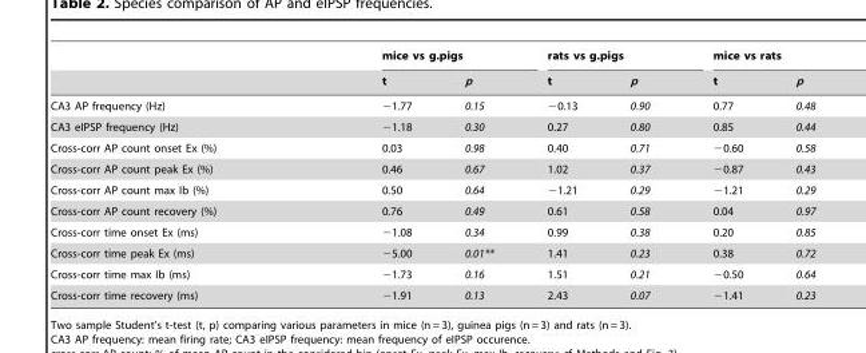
<table><thead><tr><td rowspan="2"></td><td colspan="2">mice vs g.pigs</td><td colspan="2">rats vs g.pigs</td><td colspan="2">mice vs rats</td></tr><tr><td>t</td><td>p</td><td>t</td><td>p</td><td>t</td><td>p</td></tr></thead><tbody><tr><td>CA3 AP frequency (Hz)</td><td>−1.77</td><td>0.15</td><td>−0.13</td><td>0.90</td><td>0.77</td><td>0.48</td></tr><tr><td>CA3 eIPSP frequency (Hz)</td><td>−1.18</td><td>0.30</td><td>0.27</td><td>0.80</td><td>0.85</td><td>0.44</td></tr><tr><td>Cross-corr AP count onset Ex (%)</td><td>0.03</td><td>0.98</td><td>0.40</td><td>0.71</td><td>−0.60</td><td>0.58</td></tr><tr><td>Cross-corr AP count peak Ex (%)</td><td>0.46</td><td>0.67</td><td>1.02</td><td>0.37</td><td>−0.87</td><td>0.43</td></tr><tr><td>Cross-corr AP count max Ib (%)</td><td>0.50</td><td>0.64</td><td>−1.21</td><td>0.29</td><td>−1.21</td><td>0.29</td></tr><tr><td>Cross-corr AP count recovery (%)</td><td>0.76</td><td>0.49</td><td>0.61</td><td>0.58</td><td>0.04</td><td>0.97</td></tr><tr><td>Cross-corr time onset Ex (ms)</td><td>−1.08</td><td>0.34</td><td>0.99</td><td>0.38</td><td>0.20</td><td>0.85</td></tr><tr><td>Cross-corr time peak Ex (ms)</td><td>−5.00</td><td>0.01**</td><td>1.41</td><td>0.23</td><td>0.38</td><td>0.72</td></tr><tr><td>Cross-corr time max Ib (ms)</td><td>−1.73</td><td>0.16</td><td>1.51</td><td>0.21</td><td>−0.50</td><td>0.64</td></tr><tr><td>Cross-corr time recovery (ms)</td><td>−1.91</td><td>0.13</td><td>2.43</td><td>0.07</td><td>−1.41</td><td>0.23</td></tr></tbody></table>